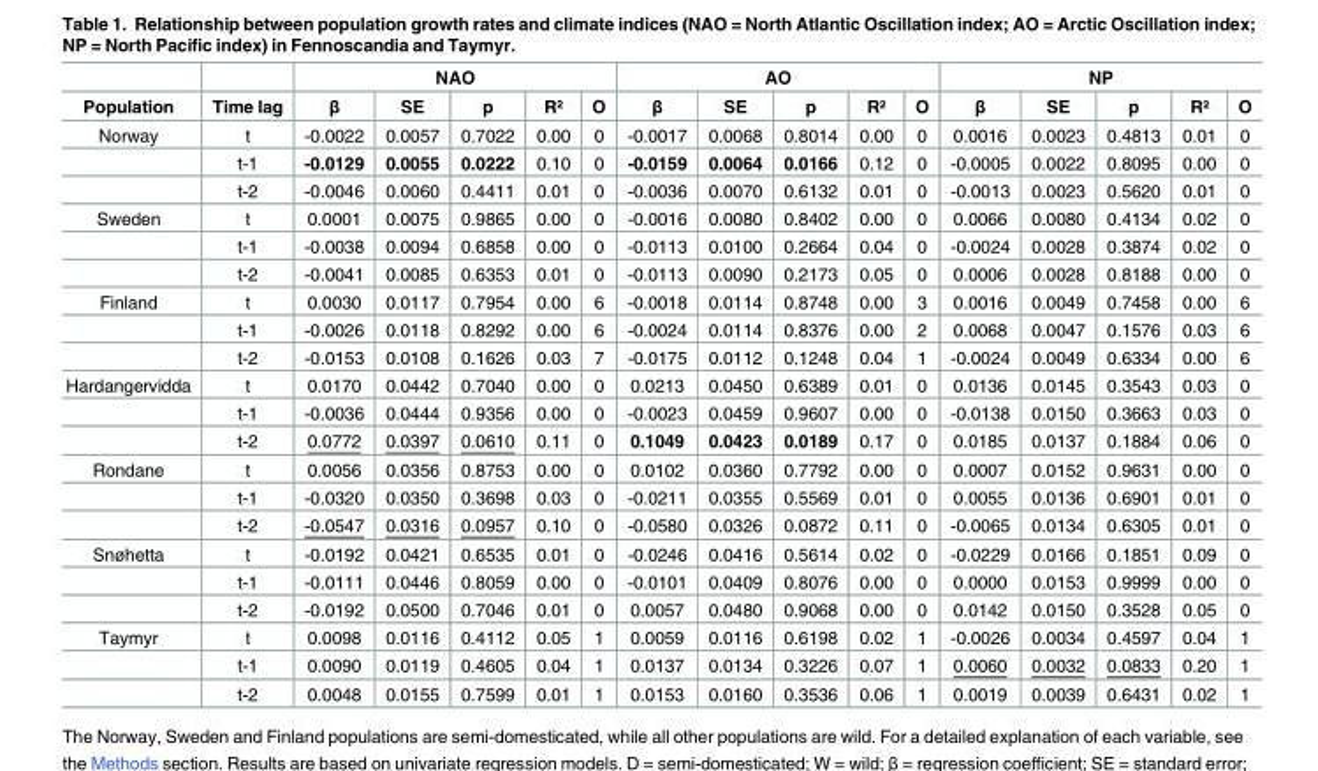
<table><thead><tr><td rowspan="2">Population</td><td rowspan="2">Time lag</td><td colspan="5">NAO</td><td colspan="5">AO</td><td colspan="5">NP</td></tr><tr><td>β</td><td>SE</td><td>p</td><td>R²</td><td>O</td><td>β</td><td>SE</td><td>p</td><td>R²</td><td>O</td><td>β</td><td>SE</td><td>p</td><td>R²</td><td>O</td></tr></thead><tbody><tr><td rowspan="3">Norway</td><td>t</td><td>-0.0022</td><td>0.0057</td><td>0.7022</td><td>0.00</td><td>0</td><td>-0.0017</td><td>0.0068</td><td>0.8014</td><td>0.00</td><td>0</td><td>0.0016</td><td>0.0023</td><td>0.4813</td><td>0.01</td><td>0</td></tr><tr><td>t-1</td><td>-0.0129</td><td>0.0055</td><td>0.0222</td><td>0.10</td><td>0</td><td>-0.0159</td><td>0.0064</td><td>0.0166</td><td>0.12</td><td>0</td><td>-0.0005</td><td>0.0022</td><td>0.8095</td><td>0.00</td><td>0</td></tr><tr><td>t-2</td><td>-0.0046</td><td>0.0060</td><td>0.4411</td><td>0.01</td><td>0</td><td>-0.0036</td><td>0.0070</td><td>0.6132</td><td>0.01</td><td>0</td><td>-0.0013</td><td>0.0023</td><td>0.5620</td><td>0.01</td><td>0</td></tr><tr><td rowspan="3">Sweden</td><td>t</td><td>0.0001</td><td>0.0075</td><td>0.9865</td><td>0.00</td><td>0</td><td>-0.0016</td><td>0.0080</td><td>0.8402</td><td>0.00</td><td>0</td><td>0.0066</td><td>0.0080</td><td>0.4134</td><td>0.02</td><td>0</td></tr><tr><td>t-1</td><td>-0.0038</td><td>0.0094</td><td>0.6858</td><td>0.00</td><td>0</td><td>-0.0113</td><td>0.0100</td><td>0.2664</td><td>0.04</td><td>0</td><td>-0.0024</td><td>0.0028</td><td>0.3874</td><td>0.02</td><td>0</td></tr><tr><td>t-2</td><td>-0.0041</td><td>0.0085</td><td>0.6353</td><td>0.01</td><td>0</td><td>-0.0113</td><td>0.0090</td><td>0.2173</td><td>0.05</td><td>0</td><td>0.0006</td><td>0.0028</td><td>0.8188</td><td>0.00</td><td>0</td></tr><tr><td rowspan="3">Finland</td><td>t</td><td>0.0030</td><td>0.0117</td><td>0.7954</td><td>0.00</td><td>6</td><td>-0.0018</td><td>0.0114</td><td>0.8748</td><td>0.00</td><td>3</td><td>0.0016</td><td>0.0049</td><td>0.7458</td><td>0.00</td><td>6</td></tr><tr><td>t-1</td><td>-0.0026</td><td>0.0118</td><td>0.8292</td><td>0.00</td><td>6</td><td>-0.0024</td><td>0.0114</td><td>0.8376</td><td>0.00</td><td>2</td><td>0.0068</td><td>0.0047</td><td>0.1576</td><td>0.03</td><td>6</td></tr><tr><td>t-2</td><td>-0.0153</td><td>0.0108</td><td>0.1626</td><td>0.03</td><td>7</td><td>-0.0175</td><td>0.0112</td><td>0.1248</td><td>0.04</td><td>1</td><td>-0.0024</td><td>0.0049</td><td>0.6334</td><td>0.00</td><td>6</td></tr><tr><td rowspan="3">Hardangervidda</td><td>t</td><td>0.0170</td><td>0.0442</td><td>0.7040</td><td>0.00</td><td>0</td><td>0.0213</td><td>0.0450</td><td>0.6389</td><td>0.01</td><td>0</td><td>0.0136</td><td>0.0145</td><td>0.3543</td><td>0.03</td><td>0</td></tr><tr><td>t-1</td><td>-0.0036</td><td>0.0444</td><td>0.9356</td><td>0.00</td><td>0</td><td>-0.0023</td><td>0.0459</td><td>0.9607</td><td>0.00</td><td>0</td><td>-0.0138</td><td>0.0150</td><td>0.3663</td><td>0.03</td><td>0</td></tr><tr><td>t-2</td><td>0.0772</td><td>0.0397</td><td>0.0610</td><td>0.11</td><td>0</td><td>0.1049</td><td>0.0423</td><td>0.0189</td><td>0.17</td><td>0</td><td>0.0185</td><td>0.0137</td><td>0.1884</td><td>0.06</td><td>0</td></tr><tr><td rowspan="3">Rondane</td><td>t</td><td>0.0056</td><td>0.0356</td><td>0.8753</td><td>0.00</td><td>0</td><td>0.0102</td><td>0.0360</td><td>0.7792</td><td>0.00</td><td>0</td><td>0.0007</td><td>0.0152</td><td>0.9631</td><td>0.00</td><td>0</td></tr><tr><td>t-1</td><td>-0.0320</td><td>0.0350</td><td>0.3698</td><td>0.03</td><td>0</td><td>-0.0211</td><td>0.0355</td><td>0.5569</td><td>0.01</td><td>0</td><td>0.0055</td><td>0.0136</td><td>0.6901</td><td>0.01</td><td>0</td></tr><tr><td>t-2</td><td>-0.0547</td><td>0.0316</td><td>0.0957</td><td>0.10</td><td>0</td><td>-0.0580</td><td>0.0326</td><td>0.0872</td><td>0.11</td><td>0</td><td>-0.0065</td><td>0.0134</td><td>0.6305</td><td>0.01</td><td>0</td></tr><tr><td rowspan="3">Snøhetta</td><td>t</td><td>-0.0192</td><td>0.0421</td><td>0.6535</td><td>0.01</td><td>0</td><td>-0.0246</td><td>0.0416</td><td>0.5614</td><td>0.02</td><td>0</td><td>-0.0229</td><td>0.0166</td><td>0.1851</td><td>0.09</td><td>0</td></tr><tr><td>t-1</td><td>-0.0111</td><td>0.0446</td><td>0.8059</td><td>0.00</td><td>0</td><td>-0.0101</td><td>0.0409</td><td>0.8076</td><td>0.00</td><td>0</td><td>0.0000</td><td>0.0153</td><td>0.9999</td><td>0.00</td><td>0</td></tr><tr><td>t-2</td><td>-0.0192</td><td>0.0500</td><td>0.7046</td><td>0.01</td><td>0</td><td>0.0057</td><td>0.0480</td><td>0.9068</td><td>0.00</td><td>0</td><td>0.0142</td><td>0.0150</td><td>0.3528</td><td>0.05</td><td>0</td></tr><tr><td rowspan="3">Taymyr</td><td>t</td><td>0.0098</td><td>0.0116</td><td>0.4112</td><td>0.05</td><td>1</td><td>0.0059</td><td>0.0116</td><td>0.6198</td><td>0.02</td><td>1</td><td>-0.0026</td><td>0.0034</td><td>0.4597</td><td>0.04</td><td>1</td></tr><tr><td>t-1</td><td>0.0090</td><td>0.0119</td><td>0.4605</td><td>0.04</td><td>1</td><td>0.0137</td><td>0.0134</td><td>0.3226</td><td>0.07</td><td>1</td><td>0.0060</td><td>0.0032</td><td>0.0833</td><td>0.20</td><td>1</td></tr><tr><td>t-2</td><td>0.0048</td><td>0.0155</td><td>0.7599</td><td>0.01</td><td>1</td><td>0.0153</td><td>0.0160</td><td>0.3536</td><td>0.06</td><td>1</td><td>0.0019</td><td>0.0039</td><td>0.6431</td><td>0.02</td><td>1</td></tr></tbody></table>